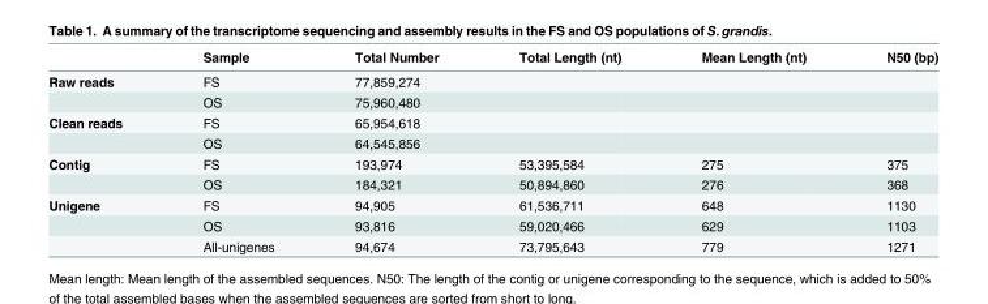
<table><thead><tr><td></td><td>Sample</td><td>Total Number</td><td>Total Length (nt)</td><td>Mean Length (nt)</td><td>N50 (bp)</td></tr></thead><tbody><tr><td rowspan="2">Raw reads</td><td>FS</td><td>77,859,274</td><td></td><td></td><td></td></tr><tr><td>OS</td><td>75,960,480</td><td></td><td></td><td></td></tr><tr><td rowspan="2">Clean reads</td><td>FS</td><td>65,954,618</td><td></td><td></td><td></td></tr><tr><td>OS</td><td>64,545,856</td><td></td><td></td><td></td></tr><tr><td rowspan="2">Contig</td><td>FS</td><td>193,974</td><td>53,395,584</td><td>275</td><td>375</td></tr><tr><td>OS</td><td>184,321</td><td>50,894,860</td><td>276</td><td>368</td></tr><tr><td rowspan="3">Unigene</td><td>FS</td><td>94,905</td><td>61,536,711</td><td>648</td><td>1130</td></tr><tr><td>OS</td><td>93,816</td><td>59,020,466</td><td>629</td><td>1103</td></tr><tr><td>All-unigenes</td><td>94,674</td><td>73,795,643</td><td>779</td><td>1271</td></tr></tbody></table>